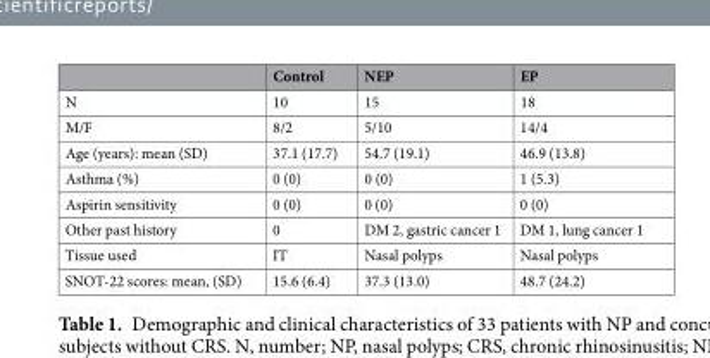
<table><thead><tr><td></td><td>Control</td><td>NEP</td><td>EP</td></tr></thead><tbody><tr><td>N</td><td>10</td><td>15</td><td>18</td></tr><tr><td>M/F</td><td>8/2</td><td>5/10</td><td>14/4</td></tr><tr><td>Age (years): mean (SD)</td><td>37.1 (17.7)</td><td>54.7 (19.1)</td><td>46.9 (13.8)</td></tr><tr><td>Asthma (%)</td><td>0 (0)</td><td>0 (0)</td><td>1 (5.3)</td></tr><tr><td>Aspirin sensitivity</td><td>0 (0)</td><td>0 (0)</td><td>0 (0)</td></tr><tr><td>Other past history</td><td>0</td><td>DM 2, gastric cancer 1</td><td>DM 1, lung cancer 1</td></tr><tr><td>Tissue used</td><td>IT</td><td>Nasal polyps</td><td>Nasal polyps</td></tr><tr><td>SNOT-22 scores: mean, (SD)</td><td>15.6 (6.4)</td><td>37.3 (13.0)</td><td>48.7 (24.2)</td></tr></tbody></table>